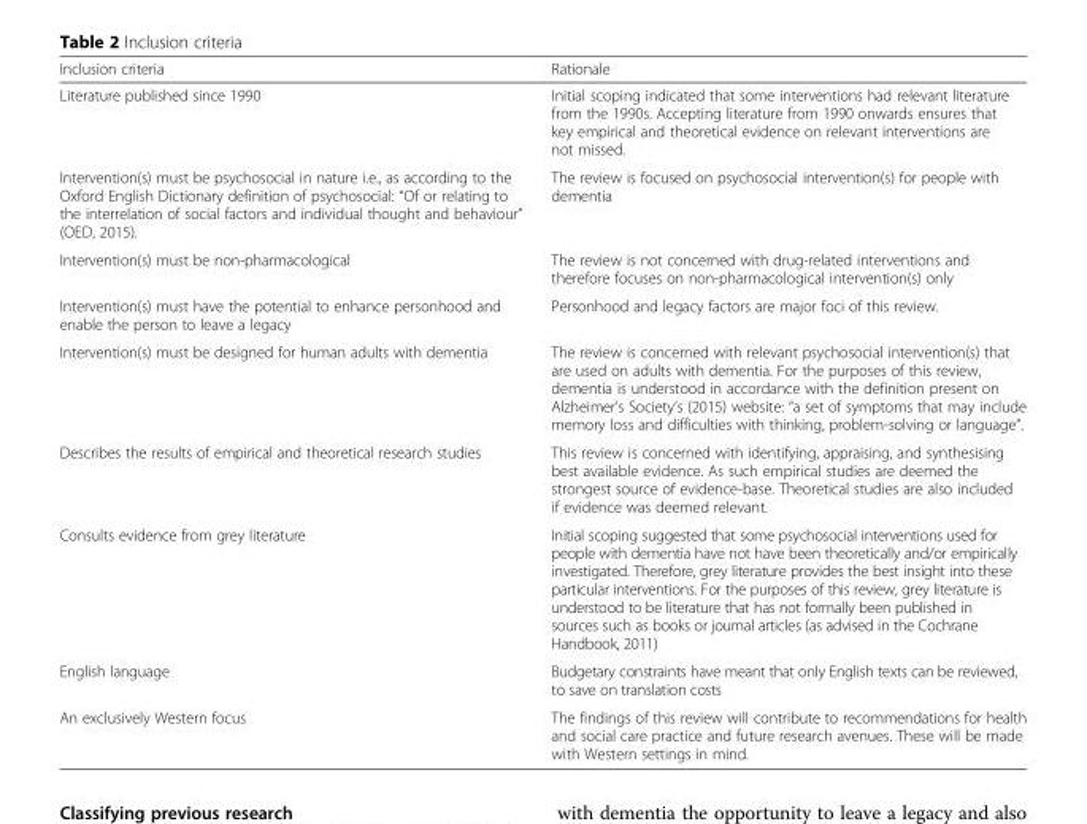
<table><thead><tr><td>Inclusion criteria</td><td>Rationale</td></tr></thead><tbody><tr><td>Literature published since 1990</td><td>Initial scoping indicated that some interventions had relevant literature from the 1990s. Accepting literature from 1990 onwards ensures that key empirical and theoretical evidence on relevant interventions are not missed.</td></tr><tr><td>Intervention(s) must be psychosocial in nature i.e., as according to the Oxford English Dictionary definition of psychosocial: “Of or relating to the interrelation of social factors and individual thought and behaviour” (OED, 2015).</td><td>The review is focused on psychosocial intervention(s) for people with dementia</td></tr><tr><td>Intervention(s) must be non-pharmacological</td><td>The review is not concerned with drug-related interventions and therefore focuses on non-pharmacological intervention(s) only</td></tr><tr><td>Intervention(s) must have the potential to enhance personhood and enable the person to leave a legacy</td><td>Personhood and legacy factors are major foci of this review.</td></tr><tr><td>Intervention(s) must be designed for human adults with dementia</td><td>The review is concerned with relevant psychosocial intervention(s) that are used on adults with dementia. For the purposes of this review, dementia is understood in accordance with the definition present on Alzheimer’s Society’s (2015) website: “a set of symptoms that may include memory loss and difficulties with thinking, problem-solving or language”.</td></tr><tr><td>Describes the results of empirical and theoretical research studies</td><td>This review is concerned with identifying, appraising, and synthesising best available evidence. As such empirical studies are deemed the strongest source of evidence-base. Theoretical studies are also included if evidence was deemed relevant.</td></tr><tr><td>Consults evidence from grey literature</td><td>Initial scoping suggested that some psychosocial interventions used for people with dementia have not have been theoretically and/or empirically investigated. Therefore, grey literature provides the best insight into these particular interventions. For the purposes of this review, grey literature is understood to be literature that has not formally been published in sources such as books or journal articles (as advised in the Cochrane Handbook, 2011)</td></tr><tr><td>English language</td><td>Budgetary constraints have meant that only English texts can be reviewed, to save on translation costs</td></tr><tr><td>An exclusively Western focus</td><td>The findings of this review will contribute to recommendations for health and social care practice and future research avenues. These will be made with Western settings in mind.</td></tr></tbody></table>